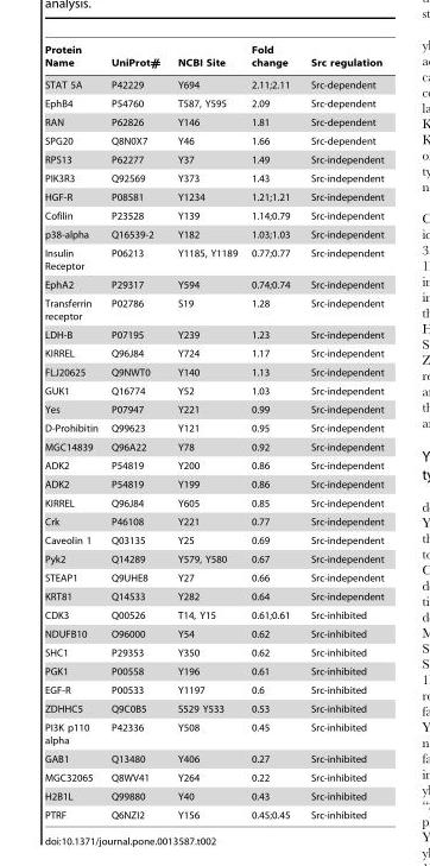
<table><thead><tr><td>Protein Name</td><td>UniProt#</td><td>NCBI Site</td><td>Fold change</td><td>Src regulation</td></tr></thead><tbody><tr><td>STAT 5A</td><td>P42229</td><td>Y694</td><td>2.11;2.11</td><td>Src-dependent</td></tr><tr><td>EphB4</td><td>P54760</td><td>T587, Y595</td><td>2.09</td><td>Src-dependent</td></tr><tr><td>RAN</td><td>P62826</td><td>Y146</td><td>1.81</td><td>Src-dependent</td></tr><tr><td>SPG20</td><td>Q8N0X7</td><td>Y46</td><td>1.66</td><td>Src-dependent</td></tr><tr><td>RPS13</td><td>P62277</td><td>Y37</td><td>1.49</td><td>Src-independent</td></tr><tr><td>PIK3R3</td><td>Q92569</td><td>Y373</td><td>1.43</td><td>Src-independent</td></tr><tr><td>HGF-R</td><td>P08581</td><td>Y1234</td><td>1.21;1.21</td><td>Src-independent</td></tr><tr><td>Cofilin</td><td>P23528</td><td>Y139</td><td>1.14;0.79</td><td>Src-independent</td></tr><tr><td>p38-alpha</td><td>Q16539-2</td><td>Y182</td><td>1.03;1.03</td><td>Src-independent</td></tr><tr><td>Insulin Receptor</td><td>P06213</td><td>Y1185, Y1189</td><td>0.77;0.77</td><td>Src-independent</td></tr><tr><td>EphA2</td><td>P29317</td><td>Y594</td><td>0.74;0.74</td><td>Src-independent</td></tr><tr><td>Transferrin receptor</td><td>P02786</td><td>S19</td><td>1.28</td><td>Src-independent</td></tr><tr><td>LDH-B</td><td>P07195</td><td>Y239</td><td>1.23</td><td>Src-independent</td></tr><tr><td>KIRREL</td><td>Q96J84</td><td>Y724</td><td>1.17</td><td>Src-independent</td></tr><tr><td>FLJ20625</td><td>Q9NWT0</td><td>Y140</td><td>1.13</td><td>Src-independent</td></tr><tr><td>GUK1</td><td>Q16774</td><td>Y52</td><td>1.03</td><td>Src-independent</td></tr><tr><td>Yes</td><td>P07947</td><td>Y221</td><td>0.99</td><td>Src-independent</td></tr><tr><td>D-Prohibitin</td><td>Q99623</td><td>Y121</td><td>0.95</td><td>Src-independent</td></tr><tr><td>MGC14839</td><td>Q96A22</td><td>Y78</td><td>0.92</td><td>Src-independent</td></tr><tr><td>ADK2</td><td>P54819</td><td>Y200</td><td>0.86</td><td>Src-independent</td></tr><tr><td>ADK2</td><td>P54819</td><td>Y199</td><td>0.86</td><td>Src-independent</td></tr><tr><td>KIRREL</td><td>Q96J84</td><td>Y605</td><td>0.85</td><td>Src-independent</td></tr><tr><td>Crk</td><td>P46108</td><td>Y221</td><td>0.77</td><td>Src-independent</td></tr><tr><td>Caveolin 1</td><td>Q03135</td><td>Y25</td><td>0.69</td><td>Src-independent</td></tr><tr><td>Pyk2</td><td>Q14289</td><td>Y579, Y580</td><td>0.67</td><td>Src-independent</td></tr><tr><td>STEAP1</td><td>Q9UHE8</td><td>Y27</td><td>0.66</td><td>Src-independent</td></tr><tr><td>KRT81</td><td>Q14533</td><td>Y282</td><td>0.64</td><td>Src-independent</td></tr><tr><td>CDK3</td><td>Q00526</td><td>T14, Y15</td><td>0.61;0.61</td><td>Src-inhibited</td></tr><tr><td>NDUFB10</td><td>O96000</td><td>Y54</td><td>0.62</td><td>Src-inhibited</td></tr><tr><td>SHC1</td><td>P29353</td><td>Y350</td><td>0.62</td><td>Src-inhibited</td></tr><tr><td>PGK1</td><td>P00558</td><td>Y196</td><td>0.61</td><td>Src-inhibited</td></tr><tr><td>EGF-R</td><td>P00533</td><td>Y1197</td><td>0.6</td><td>Src-inhibited</td></tr><tr><td>ZDHHC5</td><td>Q9C0B5</td><td>S529 Y533</td><td>0.53</td><td>Src-inhibited</td></tr><tr><td>PI3K p110 alpha</td><td>P42336</td><td>Y508</td><td>0.45</td><td>Src-inhibited</td></tr><tr><td>GAB1</td><td>Q13480</td><td>Y406</td><td>0.27</td><td>Src-inhibited</td></tr><tr><td>MGC32065</td><td>Q8WV41</td><td>Y264</td><td>0.22</td><td>Src-inhibited</td></tr><tr><td>H2B1L</td><td>Q99880</td><td>Y40</td><td>0.43</td><td>Src-inhibited</td></tr><tr><td>PTRF</td><td>Q6NZI2</td><td>Y156</td><td>0.45;0.45</td><td>Src-inhibited</td></tr></tbody></table>